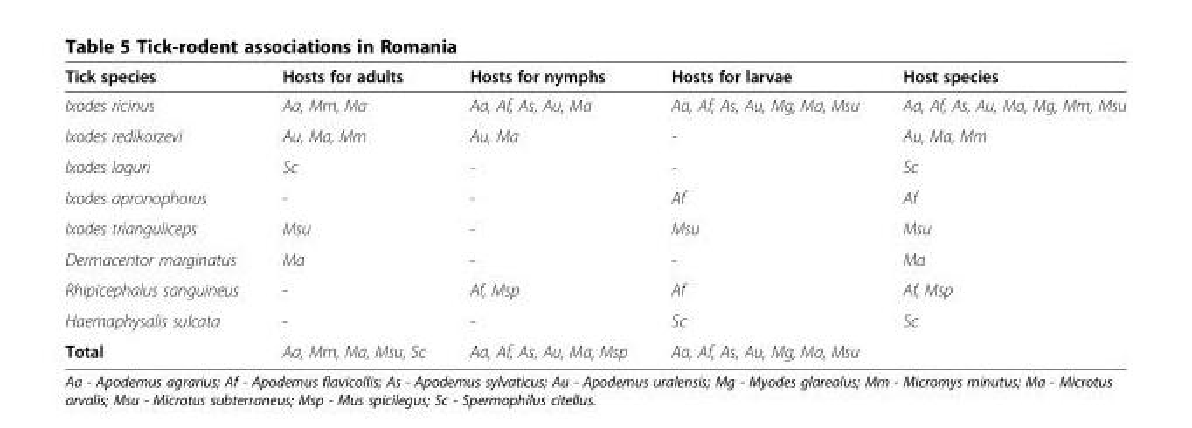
<table><thead><tr><td>Tick species</td><td>Hosts for adults</td><td>Hosts for nymphs</td><td>Hosts for larvae</td><td>Host species</td></tr></thead><tbody><tr><td>Ixodes ricinus</td><td>Aa, Mm, Ma</td><td>Aa, Af, As, Au, Ma</td><td>Aa, Af, As, Au, Mg, Ma, Msu</td><td>Aa, Af, As, Au, Ma, Mg, Mm, Msu</td></tr><tr><td>Ixodes redikorzevi</td><td>Au, Ma, Mm</td><td>Au, Ma</td><td>-</td><td>Au, Ma, Mm</td></tr><tr><td>Ixodes laguri</td><td>Sc</td><td>-</td><td>-</td><td>Sc</td></tr><tr><td>Ixodes apronophorus</td><td>-</td><td>-</td><td>Af</td><td>Af</td></tr><tr><td>Ixodes trianguliceps</td><td>Msu</td><td>-</td><td>Msu</td><td>Msu</td></tr><tr><td>Dermacentor marginatus</td><td>Ma</td><td>-</td><td>-</td><td>Ma</td></tr><tr><td>Rhipicephalus sanguineus</td><td>-</td><td>Af, Msp</td><td>Af</td><td>Af, Msp</td></tr><tr><td>Haemaphysalis sulcata</td><td>-</td><td>-</td><td>Sc</td><td>Sc</td></tr><tr><td>Total</td><td>Aa, Mm, Ma, Msu, Sc</td><td>Aa, Af, As, Au, Ma, Msp</td><td>Aa, Af, As, Au, Mg, Ma, Msu</td><td></td></tr></tbody></table>